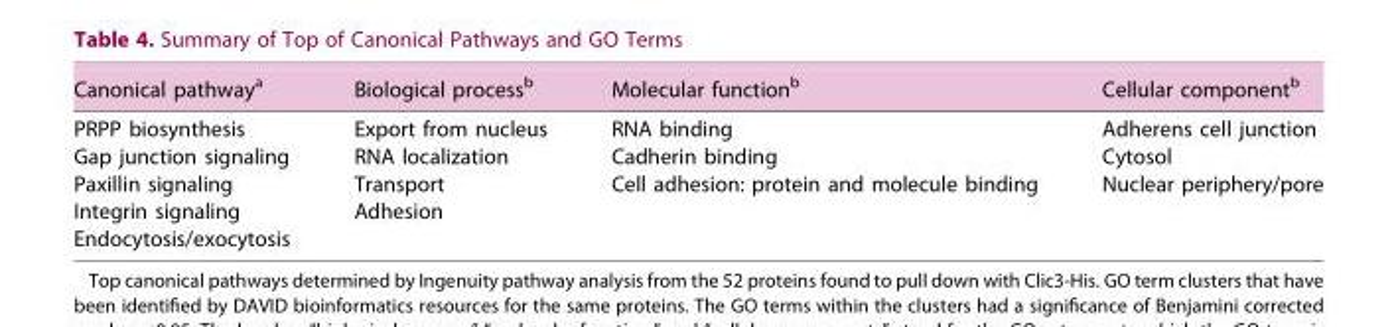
<table><thead><tr><td>Canonical pathway<sup>a</sup></td><td>Biological process<sup>b</sup></td><td>Molecular function<sup>b</sup></td><td>Cellular component<sup>b</sup></td></tr></thead><tbody><tr><td>PRPP biosynthesis</td><td>Export from nucleus</td><td>RNA binding</td><td>Adherens cell junction</td></tr><tr><td>Gap junction signaling</td><td>RNA localization</td><td>Cadherin binding</td><td>Cytosol</td></tr><tr><td>Paxillin signaling</td><td>Transport</td><td>Cell adhesion: protein and molecule binding</td><td>Nuclear periphery/pore</td></tr><tr><td>Integrin signaling</td><td>Adhesion</td><td></td><td></td></tr><tr><td>Endocytosis/exocytosis</td><td></td><td></td><td></td></tr></tbody></table>